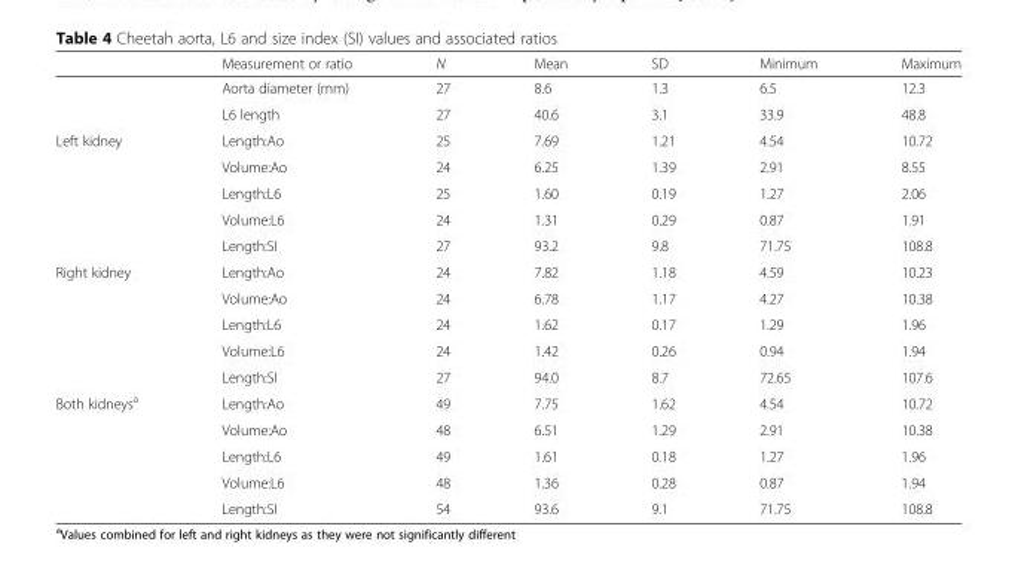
<table><thead><tr><td></td><td>Measurement or ratio</td><td>N</td><td>Mean</td><td>SD</td><td>Minimum</td><td>Maximum</td></tr></thead><tbody><tr><td></td><td>Aorta diameter (mm)</td><td>27</td><td>8.6</td><td>1.3</td><td>6.5</td><td>12.3</td></tr><tr><td></td><td>L6 length</td><td>27</td><td>40.6</td><td>3.1</td><td>33.9</td><td>48.8</td></tr><tr><td rowspan="5">Left kidney</td><td>Length:Ao</td><td>25</td><td>7.69</td><td>1.21</td><td>4.54</td><td>10.72</td></tr><tr><td>Volume:Ao</td><td>24</td><td>6.25</td><td>1.39</td><td>2.91</td><td>8.55</td></tr><tr><td>Length:L6</td><td>25</td><td>1.60</td><td>0.19</td><td>1.27</td><td>2.06</td></tr><tr><td>Volume:L6</td><td>24</td><td>1.31</td><td>0.29</td><td>0.87</td><td>1.91</td></tr><tr><td>Length:SI</td><td>27</td><td>93.2</td><td>9.8</td><td>71.75</td><td>108.8</td></tr><tr><td rowspan="5">Right kidney</td><td>Length:Ao</td><td>24</td><td>7.82</td><td>1.18</td><td>4.59</td><td>10.23</td></tr><tr><td>Volume:Ao</td><td>24</td><td>6.78</td><td>1.17</td><td>4.27</td><td>10.38</td></tr><tr><td>Length:L6</td><td>24</td><td>1.62</td><td>0.17</td><td>1.29</td><td>1.96</td></tr><tr><td>Volume:L6</td><td>24</td><td>1.42</td><td>0.26</td><td>0.94</td><td>1.94</td></tr><tr><td>Length:SI</td><td>27</td><td>94.0</td><td>8.7</td><td>72.65</td><td>107.6</td></tr><tr><td rowspan="5">Both kidneys<sup>a</sup></td><td>Length:Ao</td><td>49</td><td>7.75</td><td>1.62</td><td>4.54</td><td>10.72</td></tr><tr><td>Volume:Ao</td><td>48</td><td>6.51</td><td>1.29</td><td>2.91</td><td>10.38</td></tr><tr><td>Length:L6</td><td>49</td><td>1.61</td><td>0.18</td><td>1.27</td><td>1.96</td></tr><tr><td>Volume:L6</td><td>48</td><td>1.36</td><td>0.28</td><td>0.87</td><td>1.94</td></tr><tr><td>Length:SI</td><td>54</td><td>93.6</td><td>9.1</td><td>71.75</td><td>108.8</td></tr></tbody></table>